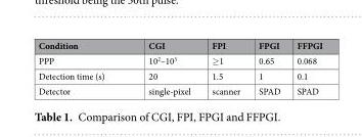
<table><thead><tr><td>Condition</td><td>CGI</td><td>FPI</td><td>FPGI</td><td>FFPGI</td></tr></thead><tbody><tr><td>PPP</td><td>10<sup>2</sup>–10<sup>3</sup></td><td>≥1</td><td>0.65</td><td>0.068</td></tr><tr><td>Detection time (s)</td><td>20</td><td>1.5</td><td>1</td><td>0.1</td></tr><tr><td>Detector</td><td>single-pixel</td><td>scanner</td><td>SPAD</td><td>SPAD</td></tr></tbody></table>